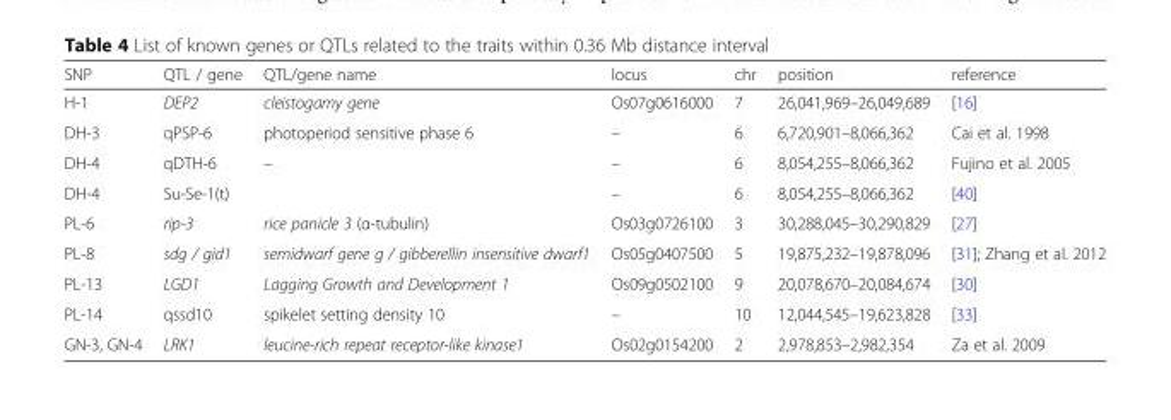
<table><thead><tr><td>SNP</td><td>QTL / gene</td><td>QTL/gene name</td><td>locus</td><td>chr</td><td>position</td><td>reference</td></tr></thead><tbody><tr><td>H-1</td><td>DEP2</td><td>cleistogamy gene</td><td>Os07g0616000</td><td>7</td><td>26,041,969–26,049,689</td><td>[16]</td></tr><tr><td>DH-3</td><td>qPSP-6</td><td>photoperiod sensitive phase 6</td><td>–</td><td>6</td><td>6,720,901–8,066,362</td><td>Cai et al. 1998</td></tr><tr><td>DH-4</td><td>qDTH-6</td><td>–</td><td>–</td><td>6</td><td>8,054,255–8,066,362</td><td>Fujino et al. 2005</td></tr><tr><td>DH-4</td><td>Su-Se-1(t)</td><td></td><td>–</td><td>6</td><td>8,054,255–8,066,362</td><td>[40]</td></tr><tr><td>PL-6</td><td>rip-3</td><td>rice panicle 3 (α-tubulin)</td><td>Os03g0726100</td><td>3</td><td>30,288,045–30,290,829</td><td>[27]</td></tr><tr><td>PL-8</td><td>sdg / gid1</td><td>semidwarf gene g / gibberellin insensitive dwarf1</td><td>Os05g0407500</td><td>5</td><td>19,875,232–19,878,096</td><td>[31]; Zhang et al. 2012</td></tr><tr><td>PL-13</td><td>LGD1</td><td>Lagging Growth and Development 1</td><td>Os09g0502100</td><td>9</td><td>20,078,670–20,084,674</td><td>[30]</td></tr><tr><td>PL-14</td><td>qssd10</td><td>spikelet setting density 10</td><td>–</td><td>10</td><td>12,044,545–19,623,828</td><td>[33]</td></tr><tr><td>GN-3, GN-4</td><td>LRK1</td><td>leucine-rich repeat receptor-like kinase1</td><td>Os02g0154200</td><td>2</td><td>2,978,853–2,982,354</td><td>Za et al. 2009</td></tr></tbody></table>